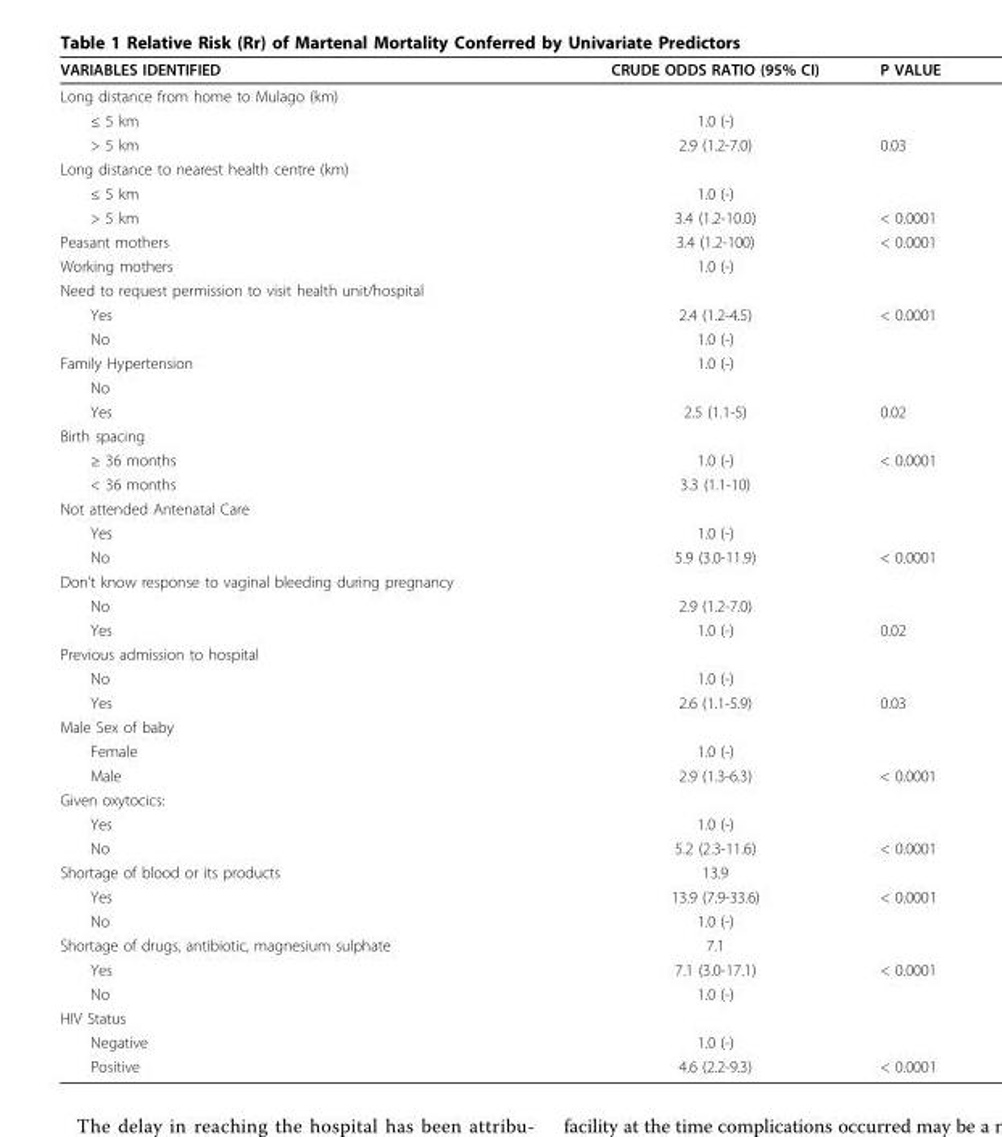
<table><thead><tr><td>VARIABLES IDENTIFIED</td><td>CRUDE ODDS RATIO (95% CI)</td><td>P VALUE</td></tr></thead><tbody><tr><td colspan="3">Long distance from home to Mulago (km)</td></tr><tr><td>≤ 5 km</td><td>1.0 (-)</td><td></td></tr><tr><td>&gt; 5 km</td><td>2.9 (1.2-7.0)</td><td>0.03</td></tr><tr><td colspan="3">Long distance to nearest health centre (km)</td></tr><tr><td>≤ 5 km</td><td>1.0 (-)</td><td></td></tr><tr><td>&gt; 5 km</td><td>3.4 (1.2-10.0)</td><td>&lt; 0.0001</td></tr><tr><td>Peasant mothers</td><td>3.4 (1.2-100)</td><td>&lt; 0.0001</td></tr><tr><td>Working mothers</td><td>1.0 (-)</td><td></td></tr><tr><td colspan="3">Need to request permission to visit health unit/hospital</td></tr><tr><td>Yes</td><td>2.4 (1.2-4.5)</td><td>&lt; 0.0001</td></tr><tr><td>No</td><td>1.0 (-)</td><td></td></tr><tr><td>Family Hypertension</td><td>1.0 (-)</td><td></td></tr><tr><td colspan="3">No</td></tr><tr><td>Yes</td><td>2.5 (1.1-5)</td><td>0.02</td></tr><tr><td colspan="3">Birth spacing</td></tr><tr><td>≥ 36 months</td><td>1.0 (-)</td><td>&lt; 0.0001</td></tr><tr><td>&lt; 36 months</td><td>3.3 (1.1-10)</td><td></td></tr><tr><td colspan="3">Not attended Antenatal Care</td></tr><tr><td>Yes</td><td>1.0 (-)</td><td></td></tr><tr><td>No</td><td>5.9 (3.0-11.9)</td><td>&lt; 0.0001</td></tr><tr><td colspan="3">Don’t know response to vaginal bleeding during pregnancy</td></tr><tr><td>No</td><td>2.9 (1.2-7.0)</td><td></td></tr><tr><td>Yes</td><td>1.0 (-)</td><td>0.02</td></tr><tr><td colspan="3">Previous admission to hospital</td></tr><tr><td>No</td><td>1.0 (-)</td><td></td></tr><tr><td>Yes</td><td>2.6 (1.1-5.9)</td><td>0.03</td></tr><tr><td colspan="3">Male Sex of baby</td></tr><tr><td>Female</td><td>1.0 (-)</td><td></td></tr><tr><td>Male</td><td>2.9 (1.3-6.3)</td><td>&lt; 0.0001</td></tr><tr><td colspan="3">Given oxytocics:</td></tr><tr><td>Yes</td><td>1.0 (-)</td><td></td></tr><tr><td>No</td><td>5.2 (2.3-11.6)</td><td>&lt; 0.0001</td></tr><tr><td>Shortage of blood or its products</td><td>13.9</td><td></td></tr><tr><td>Yes</td><td>13.9 (7.9-33.6)</td><td>&lt; 0.0001</td></tr><tr><td>No</td><td>1.0 (-)</td><td></td></tr><tr><td>Shortage of drugs, antibiotic, magnesium sulphate</td><td>7.1</td><td></td></tr><tr><td>Yes</td><td>7.1 (3.0-17.1)</td><td>&lt; 0.0001</td></tr><tr><td>No</td><td>1.0 (-)</td><td></td></tr><tr><td colspan="3">HIV Status</td></tr><tr><td>Negative</td><td>1.0 (-)</td><td></td></tr><tr><td>Positive</td><td>4.6 (2.2-9.3)</td><td>&lt; 0.0001</td></tr></tbody></table>